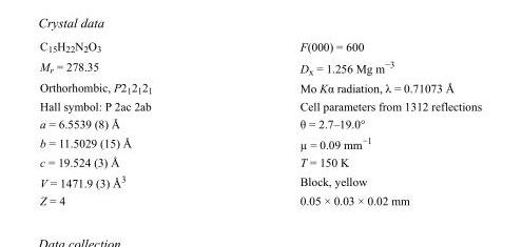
<table><tbody><tr><td>C<sub>15</sub>H<sub>22</sub>N<sub>2</sub>O<sub>3</sub></td><td>F(000) = 600</td></tr><tr><td>M<sub>r</sub> = 278.35</td><td>D<sub>x</sub> = 1.256 Mg m<sup>−3</sup></td></tr><tr><td>Orthorhombic, P2<sub>1</sub>2<sub>1</sub>2<sub>1</sub></td><td>Mo Kα radiation, λ = 0.71073 Å</td></tr><tr><td>Hall symbol: P 2ac 2ab</td><td>Cell parameters from 1312 reflections</td></tr><tr><td>a = 6.5539 (8) Å</td><td>θ = 2.7–19.0°</td></tr><tr><td>b = 11.5029 (15) Å</td><td>µ = 0.09 mm<sup>−1</sup></td></tr><tr><td>c = 19.524 (3) Å</td><td>T = 150 K</td></tr><tr><td>V = 1471.9 (3) Å<sup>3</sup></td><td>Block, yellow</td></tr><tr><td>Z = 4</td><td>0.05 × 0.03 × 0.02 mm</td></tr></tbody></table>